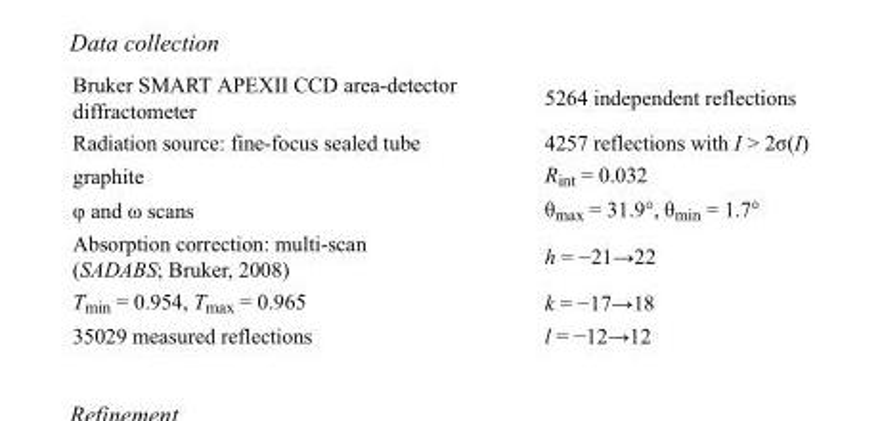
<table><tbody><tr><td>Bruker SMART APEXII CCD area-detector diffractometer</td><td>5264 independent reflections</td></tr><tr><td>Radiation source: fine-focus sealed tube</td><td>4257 reflections with I &gt; 2σ(I)</td></tr><tr><td>graphite</td><td>R<sub>int</sub> = 0.032</td></tr><tr><td>φ and ω scans</td><td>θ<sub>max</sub> = 31.9°, θ<sub>min</sub> = 1.7°</td></tr><tr><td>Absorption correction: multi-scan (SADABS; Bruker, 2008)</td><td>h = −21→22</td></tr><tr><td>T<sub>min</sub> = 0.954, T<sub>max</sub> = 0.965</td><td>k = −17→18</td></tr><tr><td>35029 measured reflections</td><td>l = −12→12</td></tr></tbody></table>